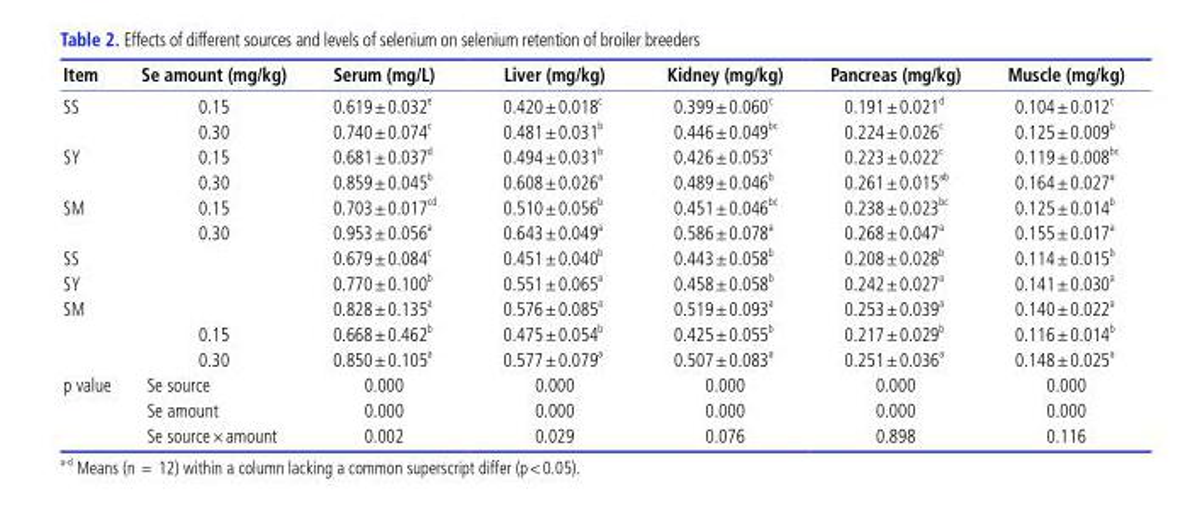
<table><thead><tr><td>Item</td><td>Se amount (mg/kg)</td><td>Serum (mg/L)</td><td>Liver (mg/kg)</td><td>Kidney (mg/kg)</td><td>Pancreas (mg/kg)</td><td>Muscle (mg/kg)</td></tr></thead><tbody><tr><td rowspan="2">SS</td><td>0.15</td><td>0.619±0.032 <sup>e</sup></td><td>0.420±0.018 <sup>c</sup></td><td>0.399±0.060 <sup>c</sup></td><td>0.191±0.021 <sup>d</sup></td><td>0.104±0.012 <sup>c</sup></td></tr><tr><td>0.30</td><td>0.740±0.074 <sup>c</sup></td><td>0.481±0.031 <sup>b</sup></td><td>0.446±0.049 <sup>bc</sup></td><td>0.224±0.026 <sup>c</sup></td><td>0.125±0.009 <sup>b</sup></td></tr><tr><td rowspan="2">SY</td><td>0.15</td><td>0.681±0.037 <sup>d</sup></td><td>0.494±0.031 <sup>b</sup></td><td>0.426±0.053 <sup>c</sup></td><td>0.223±0.022 <sup>c</sup></td><td>0.119±0.008 <sup>bc</sup></td></tr><tr><td>0.30</td><td>0.859±0.045 <sup>b</sup></td><td>0.608±0.026 <sup>a</sup></td><td>0.489±0.046 <sup>b</sup></td><td>0.261±0.015 <sup>ab</sup></td><td>0.164±0.027 <sup>a</sup></td></tr><tr><td rowspan="2">SM</td><td>0.15</td><td>0.703±0.017 <sup>cd</sup></td><td>0.510±0.056 <sup>b</sup></td><td>0.451±0.046 <sup>bc</sup></td><td>0.238±0.023 <sup>bc</sup></td><td>0.125±0.014 <sup>b</sup></td></tr><tr><td>0.30</td><td>0.953±0.056 <sup>a</sup></td><td>0.643±0.049 <sup>a</sup></td><td>0.586±0.078 <sup>a</sup></td><td>0.268±0.047 <sup>a</sup></td><td>0.155±0.017 <sup>a</sup></td></tr><tr><td>SS</td><td></td><td>0.679±0.084 <sup>c</sup></td><td>0.451±0.040 <sup>b</sup></td><td>0.443±0.058 <sup>b</sup></td><td>0.208±0.028 <sup>b</sup></td><td>0.114±0.015 <sup>b</sup></td></tr><tr><td>SY</td><td></td><td>0.770±0.100 <sup>b</sup></td><td>0.551±0.065 <sup>a</sup></td><td>0.458±0.058 <sup>b</sup></td><td>0.242±0.027 <sup>a</sup></td><td>0.141±0.030 <sup>a</sup></td></tr><tr><td rowspan="3">SM</td><td></td><td>0.828±0.135 <sup>a</sup></td><td>0.576±0.085 <sup>a</sup></td><td>0.519±0.093 <sup>a</sup></td><td>0.253±0.039 <sup>a</sup></td><td>0.140±0.022 <sup>a</sup></td></tr><tr><td>0.15</td><td>0.668±0.462 <sup>b</sup></td><td>0.475±0.054 <sup>b</sup></td><td>0.425±0.055 <sup>b</sup></td><td>0.217±0.029 <sup>b</sup></td><td>0.116±0.014 <sup>b</sup></td></tr><tr><td>0.30</td><td>0.850±0.105 <sup>a</sup></td><td>0.577±0.079 <sup>a</sup></td><td>0.507±0.083 <sup>a</sup></td><td>0.251±0.036 <sup>a</sup></td><td>0.148±0.025 <sup>a</sup></td></tr><tr><td rowspan="3">p value</td><td>Se source</td><td>0.000</td><td>0.000</td><td>0.000</td><td>0.000</td><td>0.000</td></tr><tr><td>Se amount</td><td>0.000</td><td>0.000</td><td>0.000</td><td>0.000</td><td>0.000</td></tr><tr><td>Se source×amount</td><td>0.002</td><td>0.029</td><td>0.076</td><td>0.898</td><td>0.116</td></tr></tbody></table>